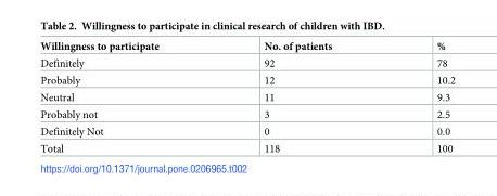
<table><tbody><tr><td>Willingness to participate</td><td>No. of patients</td><td>%</td></tr><tr><td>Definitely</td><td>92</td><td>78</td></tr><tr><td>Probably</td><td>12</td><td>10.2</td></tr><tr><td>Neutral</td><td>11</td><td>9.3</td></tr><tr><td>Probably not</td><td>3</td><td>2.5</td></tr><tr><td>Definitely Not</td><td>0</td><td>0.0</td></tr><tr><td>Total</td><td>118</td><td>100</td></tr></tbody></table>